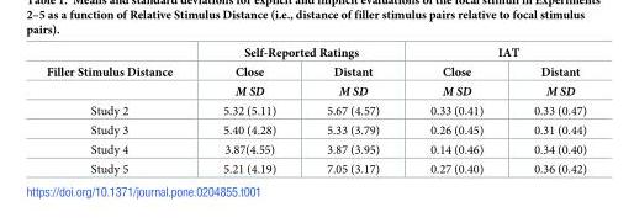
<table><thead><tr><td rowspan="3">Filler Stimulus Distance</td><td colspan="2">Self-Reported Ratings</td><td colspan="2">IAT</td></tr><tr><td rowspan="2">Close M SD</td><td rowspan="2">Distant M SD</td><td rowspan="2">Close M SD</td><td rowspan="2">Distant M SD</td></tr><tr></tr></thead><tbody><tr><td>Study 2</td><td>5.32 (5.11)</td><td>5.67 (4.57)</td><td>0.33 (0.41)</td><td>0.33 (0.47)</td></tr><tr><td>Study 3</td><td>5.40 (4.28)</td><td>5.33 (3.79)</td><td>0.26 (0.45)</td><td>0.31 (0.44)</td></tr><tr><td>Study 4</td><td>3.87(4.55)</td><td>3.87 (3.95)</td><td>0.14 (0.46)</td><td>0.34 (0.40)</td></tr><tr><td>Study 5</td><td>5.21 (4.19)</td><td>7.05 (3.17)</td><td>0.27 (0.40)</td><td>0.36 (0.42)</td></tr></tbody></table>